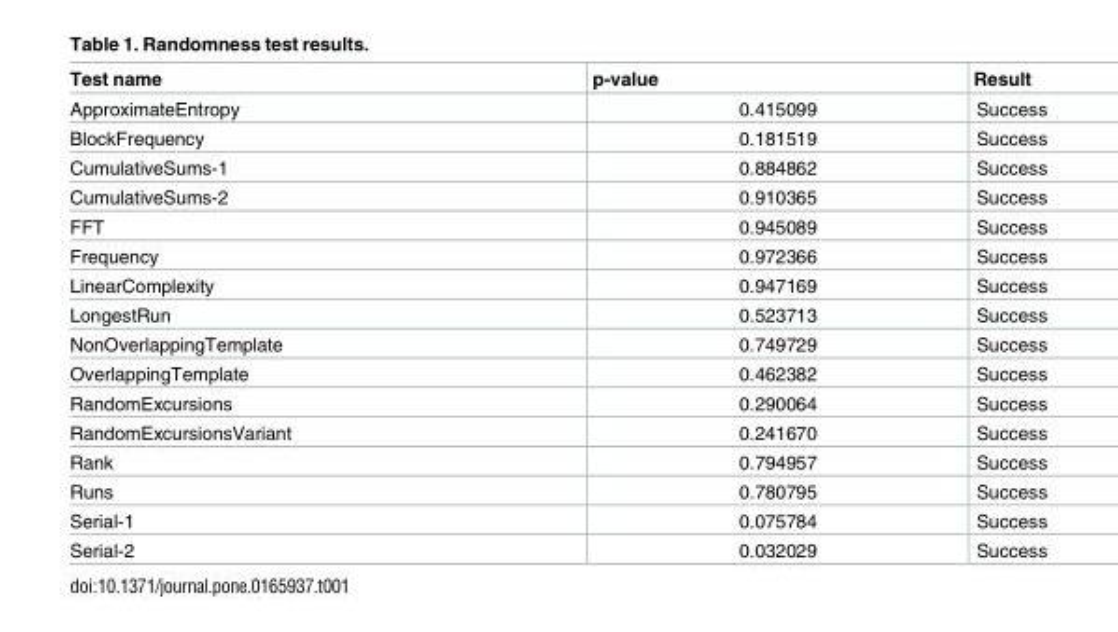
<table><thead><tr><td>Test name</td><td>p-value</td><td>Result</td></tr></thead><tbody><tr><td>ApproximateEntropy</td><td>0.415099</td><td>Success</td></tr><tr><td>BlockFrequency</td><td>0.181519</td><td>Success</td></tr><tr><td>CumulativeSums-1</td><td>0.884862</td><td>Success</td></tr><tr><td>CumulativeSums-2</td><td>0.910365</td><td>Success</td></tr><tr><td>FFT</td><td>0.945089</td><td>Success</td></tr><tr><td>Frequency</td><td>0.972366</td><td>Success</td></tr><tr><td>LinearComplexity</td><td>0.947169</td><td>Success</td></tr><tr><td>LongestRun</td><td>0.523713</td><td>Success</td></tr><tr><td>NonOverlappingTemplate</td><td>0.749729</td><td>Success</td></tr><tr><td>OverlappingTemplate</td><td>0.462382</td><td>Success</td></tr><tr><td>RandomExcursions</td><td>0.290064</td><td>Success</td></tr><tr><td>RandomExcursionsVariant</td><td>0.241670</td><td>Success</td></tr><tr><td>Rank</td><td>0.794957</td><td>Success</td></tr><tr><td>Runs</td><td>0.780795</td><td>Success</td></tr><tr><td>Serial-1</td><td>0.075784</td><td>Success</td></tr><tr><td>Serial-2</td><td>0.032029</td><td>Success</td></tr></tbody></table>